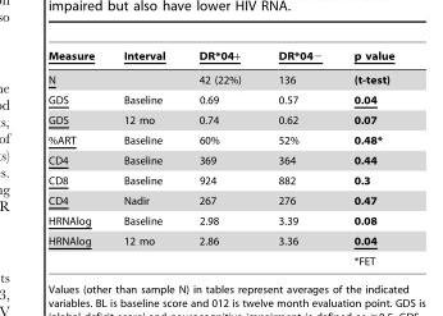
<table><thead><tr><td>Measure</td><td>Interval</td><td>DR*04+</td><td>DR*04−</td><td>p value</td></tr></thead><tbody><tr><td>N</td><td></td><td>42 (22%)</td><td>136</td><td>(t-test)</td></tr><tr><td>GDS</td><td>Baseline</td><td>0.69</td><td>0.57</td><td>0.04</td></tr><tr><td>GDS</td><td>12 mo</td><td>0.74</td><td>0.62</td><td>0.07</td></tr><tr><td>%ART</td><td>Baseline</td><td>60%</td><td>52%</td><td>0.48*</td></tr><tr><td>CD4</td><td>Baseline</td><td>369</td><td>364</td><td>0.44</td></tr><tr><td>CD8</td><td>Baseline</td><td>924</td><td>882</td><td>0.3</td></tr><tr><td>CD4</td><td>Nadir</td><td>267</td><td>276</td><td>0.47</td></tr><tr><td>HRNAlog</td><td>Baseline</td><td>2.98</td><td>3.39</td><td>0.08</td></tr><tr><td rowspan="2">HRNAlog</td><td>12 mo</td><td>2.86</td><td>3.36</td><td>0.04</td></tr><tr><td></td><td></td><td></td><td>*FET</td></tr></tbody></table>